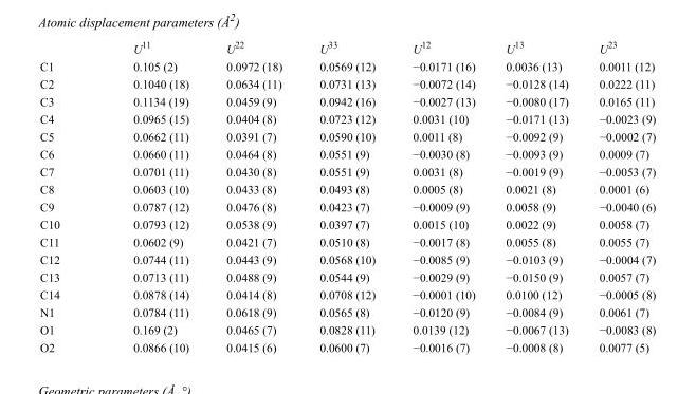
<table><thead><tr><td></td><td>U<sup>11</sup></td><td>U<sup>22</sup></td><td>U<sup>33</sup></td><td>U<sup>12</sup></td><td>U<sup>13</sup></td><td>U<sup>23</sup></td></tr></thead><tbody><tr><td>C1</td><td>0.105 (2)</td><td>0.0972 (18)</td><td>0.0569 (12)</td><td>−0.0171 (16)</td><td>0.0036 (13)</td><td>0.0011 (12)</td></tr><tr><td>C2</td><td>0.1040 (18)</td><td>0.0634 (11)</td><td>0.0731 (13)</td><td>−0.0072 (14)</td><td>−0.0128 (14)</td><td>0.0222 (11)</td></tr><tr><td>C3</td><td>0.1134 (19)</td><td>0.0459 (9)</td><td>0.0942 (16)</td><td>−0.0027 (13)</td><td>−0.0080 (17)</td><td>0.0165 (11)</td></tr><tr><td>C4</td><td>0.0965 (15)</td><td>0.0404 (8)</td><td>0.0723 (12)</td><td>0.0031 (10)</td><td>−0.0171 (13)</td><td>−0.0023 (9)</td></tr><tr><td>C5</td><td>0.0662 (11)</td><td>0.0391 (7)</td><td>0.0590 (10)</td><td>0.0011 (8)</td><td>−0.0092 (9)</td><td>−0.0002 (7)</td></tr><tr><td>C6</td><td>0.0660 (11)</td><td>0.0464 (8)</td><td>0.0551 (9)</td><td>−0.0030 (8)</td><td>−0.0093 (9)</td><td>0.0009 (7)</td></tr><tr><td>C7</td><td>0.0701 (11)</td><td>0.0430 (8)</td><td>0.0551 (9)</td><td>0.0031 (8)</td><td>−0.0019 (9)</td><td>−0.0053 (7)</td></tr><tr><td>C8</td><td>0.0603 (10)</td><td>0.0433 (8)</td><td>0.0493 (8)</td><td>0.0005 (8)</td><td>0.0021 (8)</td><td>0.0001 (6)</td></tr><tr><td>C9</td><td>0.0787 (12)</td><td>0.0476 (8)</td><td>0.0423 (7)</td><td>−0.0009 (9)</td><td>0.0058 (9)</td><td>−0.0040 (6)</td></tr><tr><td>C10</td><td>0.0793 (12)</td><td>0.0538 (9)</td><td>0.0397 (7)</td><td>0.0015 (10)</td><td>0.0022 (9)</td><td>0.0058 (7)</td></tr><tr><td>C11</td><td>0.0602 (9)</td><td>0.0421 (7)</td><td>0.0510 (8)</td><td>−0.0017 (8)</td><td>0.0055 (8)</td><td>0.0055 (7)</td></tr><tr><td>C12</td><td>0.0744 (11)</td><td>0.0443 (9)</td><td>0.0568 (10)</td><td>−0.0085 (9)</td><td>−0.0103 (9)</td><td>−0.0004 (7)</td></tr><tr><td>C13</td><td>0.0713 (11)</td><td>0.0488 (9)</td><td>0.0544 (9)</td><td>−0.0029 (9)</td><td>−0.0150 (9)</td><td>0.0057 (7)</td></tr><tr><td>C14</td><td>0.0878 (14)</td><td>0.0414 (8)</td><td>0.0708 (12)</td><td>−0.0001 (10)</td><td>0.0100 (12)</td><td>−0.0005 (8)</td></tr><tr><td>N1</td><td>0.0784 (11)</td><td>0.0618 (9)</td><td>0.0565 (8)</td><td>−0.0120 (9)</td><td>−0.0084 (9)</td><td>0.0061 (7)</td></tr><tr><td>O1</td><td>0.169 (2)</td><td>0.0465 (7)</td><td>0.0828 (11)</td><td>0.0139 (12)</td><td>−0.0067 (13)</td><td>−0.0083 (8)</td></tr><tr><td>O2</td><td>0.0866 (10)</td><td>0.0415 (6)</td><td>0.0600 (7)</td><td>−0.0016 (7)</td><td>−0.0008 (8)</td><td>0.0077 (5)</td></tr></tbody></table>